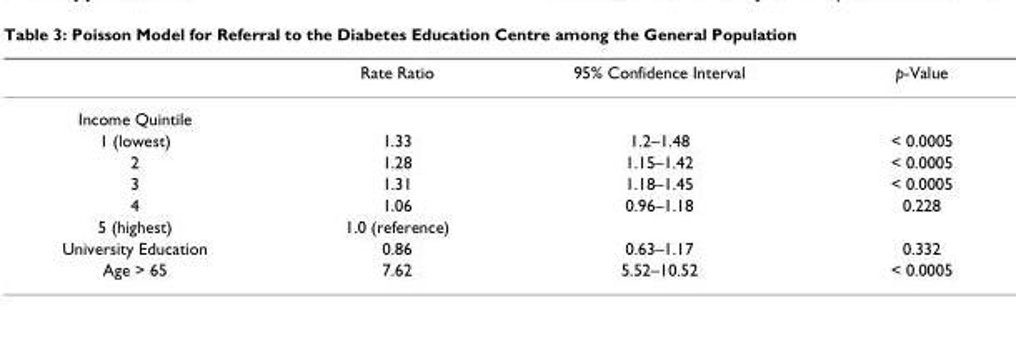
<table><thead><tr><td></td><td>Rate Ratio</td><td>95% Confidence Interval</td><td>p-Value</td></tr></thead><tbody><tr><td colspan="4">Income Quintile</td></tr><tr><td>1 (lowest)</td><td>1.33</td><td>1.2–1.48</td><td>&lt; 0.0005</td></tr><tr><td>2</td><td>1.28</td><td>1.15–1.42</td><td>&lt; 0.0005</td></tr><tr><td>3</td><td>1.31</td><td>1.18–1.45</td><td>&lt; 0.0005</td></tr><tr><td>4</td><td>1.06</td><td>0.96–1.18</td><td>0.228</td></tr><tr><td>5 (highest)</td><td>1.0 (reference)</td><td></td><td></td></tr><tr><td>University Education</td><td>0.86</td><td>0.63–1.17</td><td>0.332</td></tr><tr><td>Age &gt; 65</td><td>7.62</td><td>5.52–10.52</td><td>&lt; 0.0005</td></tr></tbody></table>